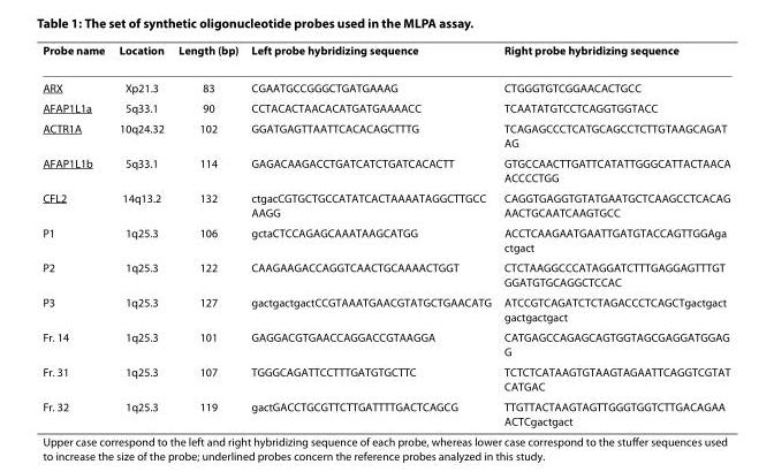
<table><thead><tr><td>Probe name</td><td>Location</td><td>Length (bp)</td><td>Left probe hybridizing sequence</td><td>Right probe hybridizing sequence</td></tr></thead><tbody><tr><td>ARX</td><td>Xp21.3</td><td>83</td><td>CGAATGCCGGGCTGATGAAAG</td><td>CTGGGTGTCGGAACACTGCC</td></tr><tr><td>AFAP1L1a</td><td>5q33.1</td><td>90</td><td>CCTACACTAACACATGATGAAAACC</td><td>TCAATATGTCCTCAGGTGGTACC</td></tr><tr><td>ACTR1A</td><td>10q24.32</td><td>102</td><td>GGATGAGTTAATTCACACAGCTTTG</td><td>TCAGAGCCCTCATGCAGCCTCTTGTAAGCAGAT AG</td></tr><tr><td>AFAP1L1b</td><td>5q33.1</td><td>114</td><td>GAGACAAGACCTGATCATCTGATCACACTT</td><td>GTGCCAACTTGATTCATATTGGGCATTACTAACA ACCCCTGG</td></tr><tr><td>CFL2</td><td>14q13.2</td><td>132</td><td>ctgacCGTGCTGCCATATCACTAAAATAGGCTTGCC AAGG</td><td>CAGGTGAGGTGTATGAATGCTCAAGCCTCACAG AACTGCAATCAAGTGCC</td></tr><tr><td>P1</td><td>1q25.3</td><td>106</td><td>gctaCTCCAGAGCAAATAAGCATGG</td><td>ACCTCAAGAATGAATTGATGTACCAGTTGGAga ctgact</td></tr><tr><td>P2</td><td>1q25.3</td><td>122</td><td>CAAGAAGACCAGGTCAACTGCAAAACTGGT</td><td>CTCTAAGGCCCATAGGATCTTTGAGGAGTTTGT GGATGTGCAGGCTCCAC</td></tr><tr><td>P3</td><td>1q25.3</td><td>127</td><td>gactgactgactCCGTAAATGAACGTATGCTGAACATG</td><td>ATCCGTCAGATCTCTAGACCCTCAGCTgactgact gactgactgact</td></tr><tr><td>Fr. 14</td><td>1q25.3</td><td>101</td><td>GAGGACGTGAACCAGGACCGTAAGGA</td><td>CATGAGCCAGAGCAGTGGTAGCGAGGATGGAG G</td></tr><tr><td>Fr. 31</td><td>1q25.3</td><td>107</td><td>TGGGCAGATTCCTTTGATGTGCTTC</td><td>TCTCTCATAAGTGTAAGTAGAATTCAGGTCGTAT CATGAC</td></tr><tr><td>Fr. 32</td><td>1q25.3</td><td>119</td><td>gactGACCTGCGTTCTTGATTTTGACTCAGCG</td><td>TTGTTACTAAGTAGTTGGGTGGTCTTGACAGAA ACTCgactgact</td></tr></tbody></table>